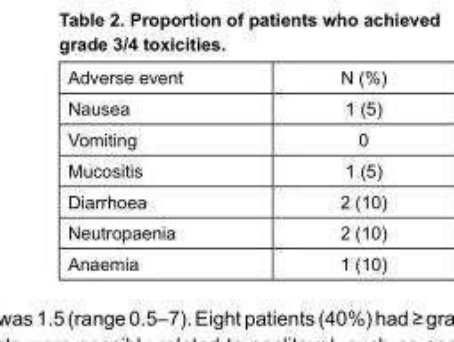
<table><tbody><tr><td>Adverse event</td><td>N (%)</td></tr><tr><td>Nausea</td><td>1 (5)</td></tr><tr><td>Vomiting</td><td>0</td></tr><tr><td>Mucositis</td><td>1 (5)</td></tr><tr><td>Diarrhoea</td><td>2 (10)</td></tr><tr><td>Neutropaenia</td><td>2 (10)</td></tr><tr><td>Anaemia</td><td>1 (10)</td></tr></tbody></table>